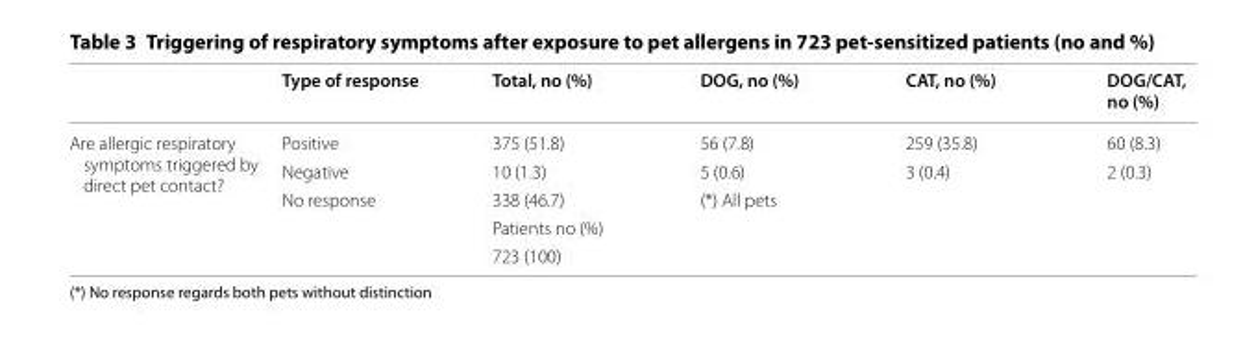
<table><thead><tr><td></td><td>Type of response</td><td>Total, no (%)</td><td>DOG, no (%)</td><td>CAT, no (%)</td><td>DOG/CAT, no (%)</td></tr></thead><tbody><tr><td rowspan="5">Are allergic respiratory symptoms triggered by direct pet contact?</td><td>Positive</td><td>375 (51.8)</td><td>56 (7.8)</td><td>259 (35.8)</td><td>60 (8.3)</td></tr><tr><td>Negative</td><td>10 (1.3)</td><td>5 (0.6)</td><td>3 (0.4)</td><td>2 (0.3)</td></tr><tr><td rowspan="3">No response</td><td>338 (46.7)</td><td rowspan="3" colspan="3">(*) All pets</td></tr><tr><td>Patients no (%)</td></tr><tr><td>723 (100)</td></tr></tbody></table>